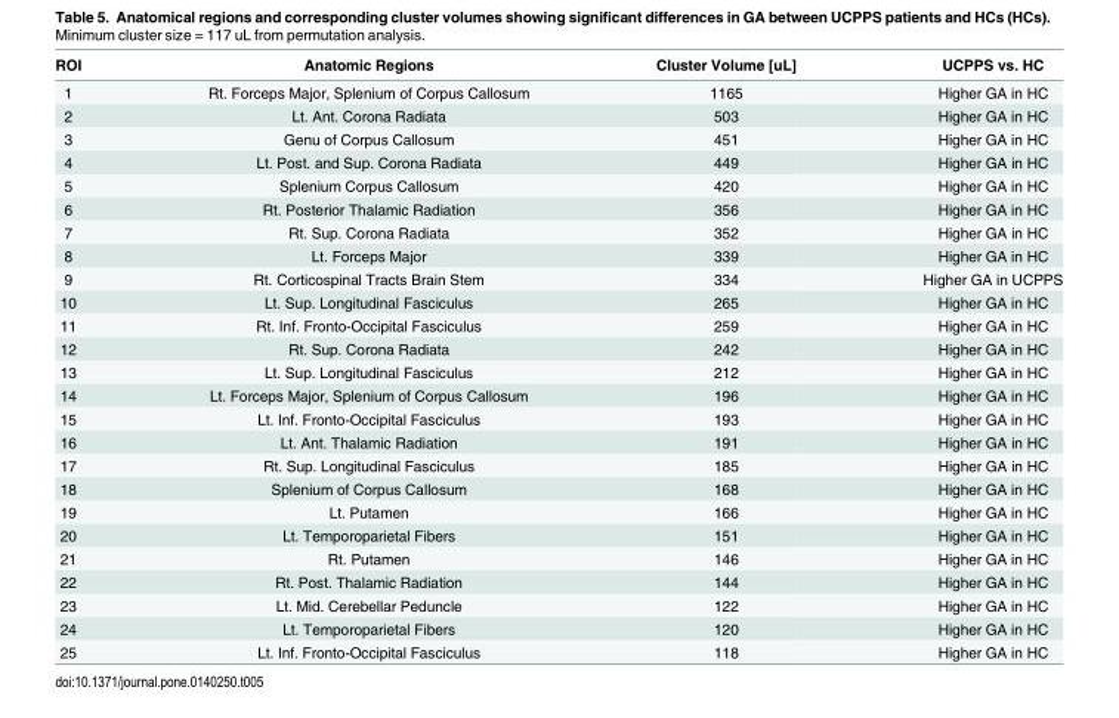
<table><thead><tr><td>ROI</td><td>Anatomic Regions</td><td>Cluster Volume [uL]</td><td>UCPPS vs. HC</td></tr></thead><tbody><tr><td>1</td><td>Rt. Forceps Major, Splenium of Corpus Callosum</td><td>1165</td><td>Higher GA in HC</td></tr><tr><td>2</td><td>Lt. Ant. Corona Radiata</td><td>503</td><td>Higher GA in HC</td></tr><tr><td>3</td><td>Genu of Corpus Callosum</td><td>451</td><td>Higher GA in HC</td></tr><tr><td>4</td><td>Lt. Post. and Sup. Corona Radiata</td><td>449</td><td>Higher GA in HC</td></tr><tr><td>5</td><td>Splenium Corpus Callosum</td><td>420</td><td>Higher GA in HC</td></tr><tr><td>6</td><td>Rt. Posterior Thalamic Radiation</td><td>356</td><td>Higher GA in HC</td></tr><tr><td>7</td><td>Rt. Sup. Corona Radiata</td><td>352</td><td>Higher GA in HC</td></tr><tr><td>8</td><td>Lt. Forceps Major</td><td>339</td><td>Higher GA in HC</td></tr><tr><td>9</td><td>Rt. Corticospinal Tracts Brain Stem</td><td>334</td><td>Higher GA in UCPPS</td></tr><tr><td>10</td><td>Lt. Sup. Longitudinal Fasciculus</td><td>265</td><td>Higher GA in HC</td></tr><tr><td>11</td><td>Rt. Inf. Fronto-Occipital Fasciculus</td><td>259</td><td>Higher GA in HC</td></tr><tr><td>12</td><td>Rt. Sup. Corona Radiata</td><td>242</td><td>Higher GA in HC</td></tr><tr><td>13</td><td>Lt. Sup. Longitudinal Fasciculus</td><td>212</td><td>Higher GA in HC</td></tr><tr><td>14</td><td>Lt. Forceps Major, Splenium of Corpus Callosum</td><td>196</td><td>Higher GA in HC</td></tr><tr><td>15</td><td>Lt. Inf. Fronto-Occipital Fasciculus</td><td>193</td><td>Higher GA in HC</td></tr><tr><td>16</td><td>Lt. Ant. Thalamic Radiation</td><td>191</td><td>Higher GA in HC</td></tr><tr><td>17</td><td>Rt. Sup. Longitudinal Fasciculus</td><td>185</td><td>Higher GA in HC</td></tr><tr><td>18</td><td>Splenium of Corpus Callosum</td><td>168</td><td>Higher GA in HC</td></tr><tr><td>19</td><td>Lt. Putamen</td><td>166</td><td>Higher GA in HC</td></tr><tr><td>20</td><td>Lt. Temporoparietal Fibers</td><td>151</td><td>Higher GA in HC</td></tr><tr><td>21</td><td>Rt. Putamen</td><td>146</td><td>Higher GA in HC</td></tr><tr><td>22</td><td>Rt. Post. Thalamic Radiation</td><td>144</td><td>Higher GA in HC</td></tr><tr><td>23</td><td>Lt. Mid. Cerebellar Peduncle</td><td>122</td><td>Higher GA in HC</td></tr><tr><td>24</td><td>Lt. Temporoparietal Fibers</td><td>120</td><td>Higher GA in HC</td></tr><tr><td>25</td><td>Lt. Inf. Fronto-Occipital Fasciculus</td><td>118</td><td>Higher GA in HC</td></tr></tbody></table>